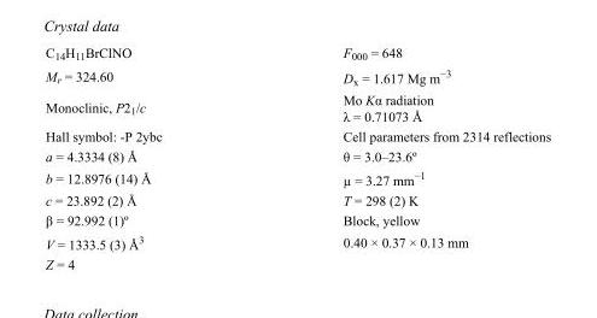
<table><tbody><tr><td>C<sub>14</sub>H<sub>11</sub>BrClNO</td><td>F<sub>000</sub> = 648</td></tr><tr><td>M<sub>r</sub> = 324.60</td><td>D<sub>x</sub> = 1.617 Mg m<sup>−3</sup></td></tr><tr><td>Monoclinic, P2<sub>1</sub>/c</td><td>Mo Kα radiation λ = 0.71073 Å</td></tr><tr><td>Hall symbol: -P 2ybc</td><td>Cell parameters from 2314 reflections</td></tr><tr><td>a = 4.3334 (8) Å</td><td>θ = 3.0–23.6º</td></tr><tr><td>b = 12.8976 (14) Å</td><td>µ = 3.27 mm<sup>−1</sup></td></tr><tr><td>c = 23.892 (2) Å</td><td>T = 298 (2) K</td></tr><tr><td>β = 92.992 (1)º</td><td>Block, yellow</td></tr><tr><td>V = 1333.5 (3) Å<sup>3</sup></td><td>0.40 × 0.37 × 0.13 mm</td></tr><tr><td>Z = 4</td><td></td></tr></tbody></table>